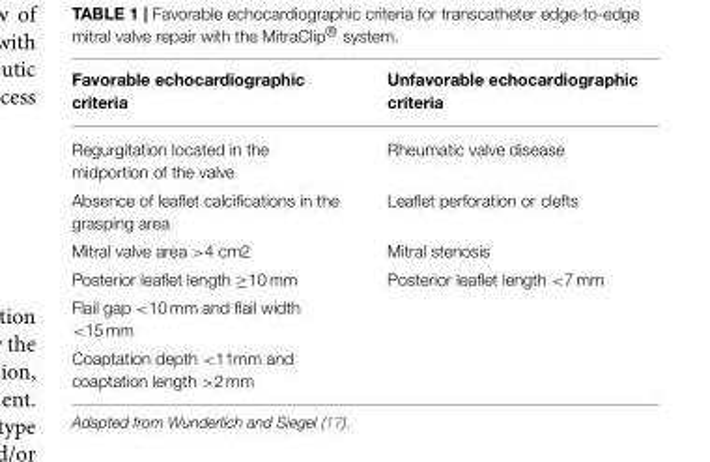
<table><thead><tr><td>Favorable echocardiographic criteria</td><td>Unfavorable echocardiographic criteria</td></tr></thead><tbody><tr><td>Regurgitation located in the midportion of the valve</td><td>Rheumatic valve disease</td></tr><tr><td>Absence of leaflet calcifications in the grasping area</td><td>Leaflet perforation or clefts</td></tr><tr><td>Mitral valve area &gt;4 cm2</td><td>Mitral stenosis</td></tr><tr><td>Posterior leaflet length ≥10 mm</td><td>Posterior leaflet length &lt;7 mm</td></tr><tr><td colspan="2">Flail gap &lt;10 mm and flail width &lt;15 mm</td></tr><tr><td>Coaptation depth &lt;11mm and coaptation length &gt;2 mm</td><td></td></tr></tbody></table>